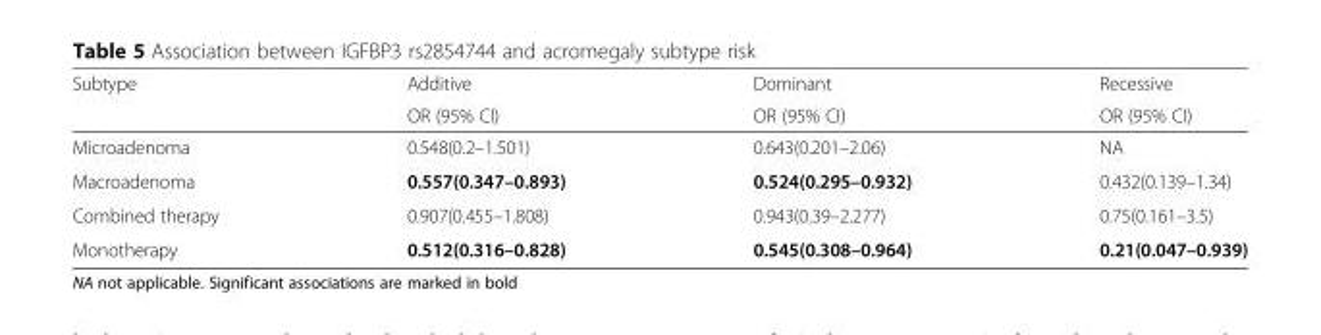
<table><thead><tr><td rowspan="2">Subtype</td><td rowspan="2">Additive OR (95% CI)</td><td rowspan="2">Dominant OR (95% CI)</td><td rowspan="2">Recessive OR (95% CI)</td></tr><tr></tr></thead><tbody><tr><td>Microadenoma</td><td>0.548(0.2–1.501)</td><td>0.643(0.201–2.06)</td><td>NA</td></tr><tr><td>Macroadenoma</td><td>0.557(0.347–0.893)</td><td>0.524(0.295–0.932)</td><td>0.432(0.139–1.34)</td></tr><tr><td>Combined therapy</td><td>0.907(0.455–1.808)</td><td>0.943(0.39–2.277)</td><td>0.75(0.161–3.5)</td></tr><tr><td>Monotherapy</td><td>0.512(0.316–0.828)</td><td>0.545(0.308–0.964)</td><td>0.21(0.047–0.939)</td></tr></tbody></table>